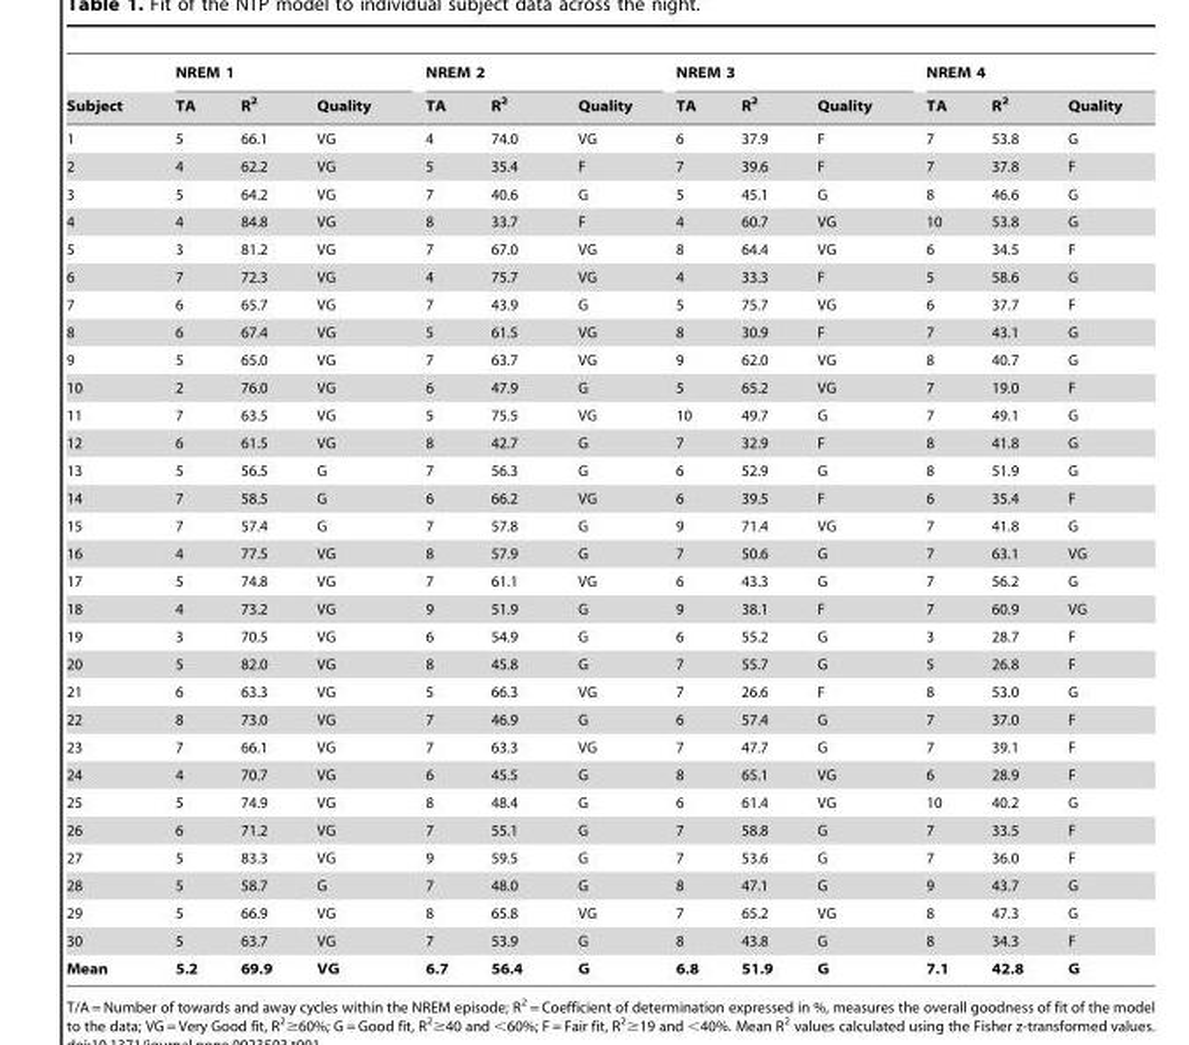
<table><thead><tr><td rowspan="2">Subject</td><td colspan="3">NREM 1</td><td colspan="3">NREM 2</td><td colspan="3">NREM 3</td><td colspan="3">NREM 4</td></tr><tr><td>TA</td><td>R<sup>2</sup></td><td>Quality</td><td>TA</td><td>R<sup>2</sup></td><td>Quality</td><td>TA</td><td>R<sup>2</sup></td><td>Quality</td><td>TA</td><td>R<sup>2</sup></td><td>Quality</td></tr></thead><tbody><tr><td>1</td><td>5</td><td>66.1</td><td>VG</td><td>4</td><td>74.0</td><td>VG</td><td>6</td><td>37.9</td><td>F</td><td>7</td><td>53.8</td><td>G</td></tr><tr><td>2</td><td>4</td><td>62.2</td><td>VG</td><td>5</td><td>35.4</td><td>F</td><td>7</td><td>39.6</td><td>F</td><td>7</td><td>37.8</td><td>F</td></tr><tr><td>3</td><td>5</td><td>64.2</td><td>VG</td><td>7</td><td>40.6</td><td>G</td><td>5</td><td>45.1</td><td>G</td><td>8</td><td>46.6</td><td>G</td></tr><tr><td>4</td><td>4</td><td>84.8</td><td>VG</td><td>8</td><td>33.7</td><td>F</td><td>4</td><td>60.7</td><td>VG</td><td>10</td><td>53.8</td><td>G</td></tr><tr><td>5</td><td>3</td><td>81.2</td><td>VG</td><td>7</td><td>67.0</td><td>VG</td><td>8</td><td>64.4</td><td>VG</td><td>6</td><td>34.5</td><td>F</td></tr><tr><td>6</td><td>7</td><td>72.3</td><td>VG</td><td>4</td><td>75.7</td><td>VG</td><td>4</td><td>33.3</td><td>F</td><td>5</td><td>58.6</td><td>G</td></tr><tr><td>7</td><td>6</td><td>65.7</td><td>VG</td><td>7</td><td>43.9</td><td>G</td><td>5</td><td>75.7</td><td>VG</td><td>6</td><td>37.7</td><td>F</td></tr><tr><td>8</td><td>6</td><td>67.4</td><td>VG</td><td>5</td><td>61.5</td><td>VG</td><td>8</td><td>30.9</td><td>F</td><td>7</td><td>43.1</td><td>G</td></tr><tr><td>9</td><td>5</td><td>65.0</td><td>VG</td><td>7</td><td>63.7</td><td>VG</td><td>9</td><td>62.0</td><td>VG</td><td>8</td><td>40.7</td><td>G</td></tr><tr><td>10</td><td>2</td><td>76.0</td><td>VG</td><td>6</td><td>47.9</td><td>G</td><td>5</td><td>65.2</td><td>VG</td><td>7</td><td>19.0</td><td>F</td></tr><tr><td>11</td><td>7</td><td>63.5</td><td>VG</td><td>5</td><td>75.5</td><td>VG</td><td>10</td><td>49.7</td><td>G</td><td>7</td><td>49.1</td><td>G</td></tr><tr><td>12</td><td>6</td><td>61.5</td><td>VG</td><td>8</td><td>42.7</td><td>G</td><td>7</td><td>32.9</td><td>F</td><td>8</td><td>41.8</td><td>G</td></tr><tr><td>13</td><td>5</td><td>56.5</td><td>G</td><td>7</td><td>56.3</td><td>G</td><td>6</td><td>52.9</td><td>G</td><td>8</td><td>51.9</td><td>G</td></tr><tr><td>14</td><td>7</td><td>58.5</td><td>G</td><td>6</td><td>66.2</td><td>VG</td><td>6</td><td>39.5</td><td>F</td><td>6</td><td>35.4</td><td>F</td></tr><tr><td>15</td><td>7</td><td>57.4</td><td>G</td><td>7</td><td>57.8</td><td>G</td><td>9</td><td>71.4</td><td>VG</td><td>7</td><td>41.8</td><td>G</td></tr><tr><td>16</td><td>4</td><td>77.5</td><td>VG</td><td>8</td><td>57.9</td><td>G</td><td>7</td><td>50.6</td><td>G</td><td>7</td><td>63.1</td><td>VG</td></tr><tr><td>17</td><td>5</td><td>74.8</td><td>VG</td><td>7</td><td>61.1</td><td>VG</td><td>6</td><td>43.3</td><td>G</td><td>7</td><td>56.2</td><td>G</td></tr><tr><td>18</td><td>4</td><td>73.2</td><td>VG</td><td>9</td><td>51.9</td><td>G</td><td>9</td><td>38.1</td><td>F</td><td>7</td><td>60.9</td><td>VG</td></tr><tr><td>19</td><td>3</td><td>70.5</td><td>VG</td><td>6</td><td>54.9</td><td>G</td><td>6</td><td>55.2</td><td>G</td><td>3</td><td>28.7</td><td>F</td></tr><tr><td>20</td><td>5</td><td>82.0</td><td>VG</td><td>8</td><td>45.8</td><td>G</td><td>7</td><td>55.7</td><td>G</td><td>5</td><td>26.8</td><td>F</td></tr><tr><td>21</td><td>6</td><td>63.3</td><td>VG</td><td>5</td><td>66.3</td><td>VG</td><td>7</td><td>26.6</td><td>F</td><td>8</td><td>53.0</td><td>G</td></tr><tr><td>22</td><td>8</td><td>73.0</td><td>VG</td><td>7</td><td>46.9</td><td>G</td><td>6</td><td>57.4</td><td>G</td><td>7</td><td>37.0</td><td>F</td></tr><tr><td>23</td><td>7</td><td>66.1</td><td>VG</td><td>7</td><td>63.3</td><td>VG</td><td>7</td><td>47.7</td><td>G</td><td>7</td><td>39.1</td><td>F</td></tr><tr><td>24</td><td>4</td><td>70.7</td><td>VG</td><td>6</td><td>45.5</td><td>G</td><td>8</td><td>65.1</td><td>VG</td><td>6</td><td>28.9</td><td>F</td></tr><tr><td>25</td><td>5</td><td>74.9</td><td>VG</td><td>8</td><td>48.4</td><td>G</td><td>6</td><td>61.4</td><td>VG</td><td>10</td><td>40.2</td><td>G</td></tr><tr><td>26</td><td>6</td><td>71.2</td><td>VG</td><td>7</td><td>55.1</td><td>G</td><td>7</td><td>58.8</td><td>G</td><td>7</td><td>33.5</td><td>F</td></tr><tr><td>27</td><td>5</td><td>83.3</td><td>VG</td><td>9</td><td>59.5</td><td>G</td><td>7</td><td>53.6</td><td>G</td><td>7</td><td>36.0</td><td>F</td></tr><tr><td>28</td><td>5</td><td>58.7</td><td>G</td><td>7</td><td>48.0</td><td>G</td><td>8</td><td>47.1</td><td>G</td><td>9</td><td>43.7</td><td>G</td></tr><tr><td>29</td><td>5</td><td>66.9</td><td>VG</td><td>8</td><td>65.8</td><td>VG</td><td>7</td><td>65.2</td><td>VG</td><td>8</td><td>47.3</td><td>G</td></tr><tr><td>30</td><td>5</td><td>63.7</td><td>VG</td><td>7</td><td>53.9</td><td>G</td><td>8</td><td>43.8</td><td>G</td><td>8</td><td>34.3</td><td>F</td></tr><tr><td>Mean</td><td>5.2</td><td>69.9</td><td>VG</td><td>6.7</td><td>56.4</td><td>G</td><td>6.8</td><td>51.9</td><td>G</td><td>7.1</td><td>42.8</td><td>G</td></tr></tbody></table>